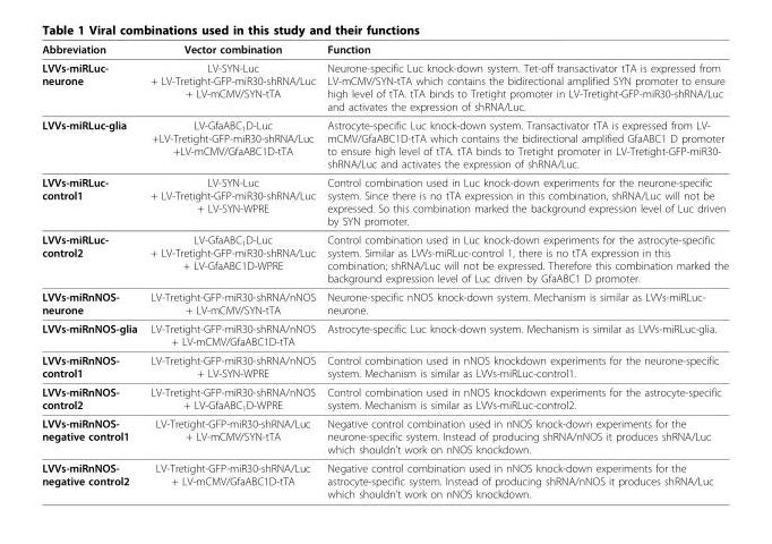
<table><thead><tr><td>Abbreviation</td><td>Vector combination</td><td>Function</td></tr></thead><tbody><tr><td>LVVs-miRLuc- neurone</td><td>LV-SYN-Luc + LV-Tretight-GFP-miR30-shRNA/Luc + LV-mCMV/SYN-tTA</td><td>Neurone-specific Luc knock-down system. Tet-off transactivator tTA is expressed from LV-mCMV/SYN-tTA which contains the bidirectional amplified SYN promoter to ensure high level of tTA. tTA binds to Tretight promoter in LV-Tretight-GFP-miR30-shRNA/Luc and activates the expression of shRNA/Luc.</td></tr><tr><td>LVVs-miRLuc-glia</td><td>LV-GfaABC<sub>1</sub>D-Luc +LV-Tretight-GFP-miR30-shRNA/Luc +LV-mCMV/GfaABC1D-tTA</td><td>Astrocyte-specific Luc knock-down system. Transactivator tTA is expressed from LV- mCMV/GfaABC1D-tTA which contains the bidirectional amplified GfaABC1 D promoter to ensure high level of tTA. tTA binds to Tretight promoter in LV-Tretight-GFP-miR30- shRNA/Luc and activates the expression of shRNA/Luc.</td></tr><tr><td>LVVs-miRLuc- control1</td><td>LV-SYN-Luc + LV-Tretight-GFP-miR30-shRNA/Luc + LV-SYN-WPRE</td><td>Control combination used in Luc knock-down experiments for the neurone-specific system. Since there is no tTA expression in this combination, shRNA/Luc will not be expressed. So this combination marked the background expression level of Luc driven by SYN promoter.</td></tr><tr><td>LVVs-miRLuc- control2</td><td>LV-GfaABC<sub>1</sub>D-Luc + LV-Tretight-GFP-miR30-shRNA/Luc + LV-GfaABC1D-WPRE</td><td>Control combination used in Luc knock-down experiments for the astrocyte-specific system. Similar as LVVs-miRLuc-control 1, there is no tTA expression in this combination; shRNA/Luc will not be expressed. Therefore this combination marked the background expression level of Luc driven by GfaABC1 D promoter.</td></tr><tr><td>LVVs-miRnNOS- neurone</td><td>LV-Tretight-GFP-miR30-shRNA/nNOS + LV-mCMV/SYN-tTA</td><td>Neurone-specific nNOS knock-down system. Mechanism is similar as LVVs-miRLuc- neurone.</td></tr><tr><td>LVVs-miRnNOS-glia</td><td>LV-Tretight-GFP-miR30-shRNA/nNOS + LV-mCMV/GfaABC1D-tTA</td><td>Astrocyte-specific Luc knock-down system. Mechanism is similar as LVVs-miRLuc-glia.</td></tr><tr><td>LVVs-miRnNOS- control1</td><td>LV-Tretight-GFP-miR30-shRNA/nNOS + LV-SYN-WPRE</td><td>Control combination used in nNOS knockdown experiments for the neurone-specific system. Mechanism is similar as LVVs-miRLuc-control1.</td></tr><tr><td>LVVs-miRnNOS- control2</td><td>LV-Tretight-GFP-miR30-shRNA/nNOS + LV-GfaABC<sub>1</sub>D-WPRE</td><td>Control combination used in nNOS knockdown experiments for the astrocyte-specific system. Mechanism is similar as LVVs-miRLuc-control2.</td></tr><tr><td>LVVs-miRnNOS- negative control1</td><td>LV-Tretight-GFP-miR30-shRNA/Luc + LV-mCMV/SYN-tTA</td><td>Negative control combination used in nNOS knock-down experiments for the neurone-specific system. Instead of producing shRNA/nNOS it produces shRNA/Luc which shouldn’t work on nNOS knockdown.</td></tr><tr><td>LVVs-miRnNOS- negative control2</td><td>LV-Tretight-GFP-miR30-shRNA/Luc + LV-mCMV/GfaABC1D-tTA</td><td>Negative control combination used in nNOS knock-down experiments for the astrocyte-specific system. Instead of producing shRNA/nNOS it produces shRNA/Luc which shouldn’t work on nNOS knockdown.</td></tr></tbody></table>